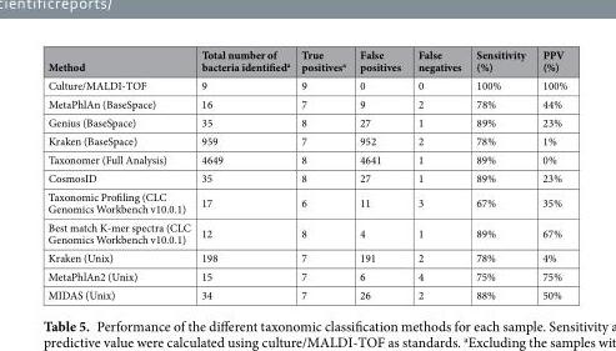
<table><thead><tr><td>Method</td><td>Total number of bacteria identified<sup>a</sup></td><td>True positives<sup>a</sup></td><td>False positives</td><td>False negatives</td><td>Sensitivity (%)</td><td>PPV (%)</td></tr></thead><tbody><tr><td>Culture/MALDI-TOF</td><td>9</td><td>9</td><td>0</td><td>0</td><td>100%</td><td>100%</td></tr><tr><td>MetaPhlAn (BaseSpace)</td><td>16</td><td>7</td><td>9</td><td>2</td><td>78%</td><td>44%</td></tr><tr><td>Genius (BaseSpace)</td><td>35</td><td>8</td><td>27</td><td>1</td><td>89%</td><td>23%</td></tr><tr><td>Kraken (BaseSpace)</td><td>959</td><td>7</td><td>952</td><td>2</td><td>78%</td><td>1%</td></tr><tr><td>Taxonomer (Full Analysis)</td><td>4649</td><td>8</td><td>4641</td><td>1</td><td>89%</td><td>0%</td></tr><tr><td>CosmosID</td><td>35</td><td>8</td><td>27</td><td>1</td><td>89%</td><td>23%</td></tr><tr><td>Taxonomic Profiling (CLC Genomics Workbench v10.0.1)</td><td>17</td><td>6</td><td>11</td><td>3</td><td>67%</td><td>35%</td></tr><tr><td>Best match K-mer spectra (CLC Genomics Workbench v10.0.1)</td><td>12</td><td>8</td><td>4</td><td>1</td><td>89%</td><td>67%</td></tr><tr><td>Kraken (Unix)</td><td>198</td><td>7</td><td>191</td><td>2</td><td>78%</td><td>4%</td></tr><tr><td>MetaPhlAn2 (Unix)</td><td>15</td><td>7</td><td>6</td><td>4</td><td>75%</td><td>75%</td></tr><tr><td>MIDAS (Unix)</td><td>34</td><td>7</td><td>26</td><td>2</td><td>88%</td><td>50%</td></tr></tbody></table>